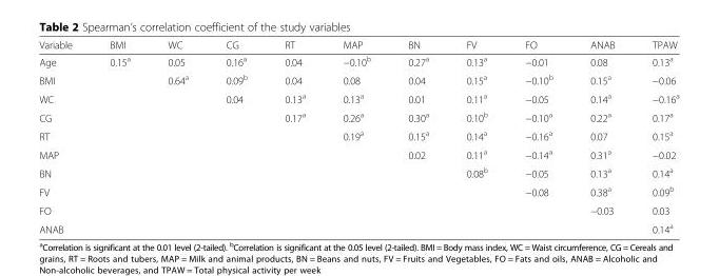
<table><thead><tr><td>Variable</td><td>BMI</td><td>WC</td><td>CG</td><td>RT</td><td>MAP</td><td>BN</td><td>FV</td><td>FO</td><td>ANAB</td><td>TPAW</td></tr></thead><tbody><tr><td>Age</td><td>0.15<sup>a</sup></td><td>0.05</td><td>0.16<sup>a</sup></td><td>0.04</td><td>−0.10<sup>b</sup></td><td>0.27<sup>a</sup></td><td>0.13<sup>a</sup></td><td>−0.01</td><td>0.08</td><td>0.13<sup>a</sup></td></tr><tr><td>BMI</td><td></td><td>0.64<sup>a</sup></td><td>0.09<sup>b</sup></td><td>0.04</td><td>0.08</td><td>0.04</td><td>0.15<sup>a</sup></td><td>−0.10<sup>b</sup></td><td>0.15<sup>a</sup></td><td>−0.06</td></tr><tr><td>WC</td><td></td><td></td><td>0.04</td><td>0.13<sup>a</sup></td><td>0.13<sup>a</sup></td><td>0.01</td><td>0.11<sup>a</sup></td><td>−0.05</td><td>0.14<sup>a</sup></td><td>−0.16<sup>a</sup></td></tr><tr><td>CG</td><td></td><td></td><td></td><td>0.17<sup>a</sup></td><td>0.26<sup>a</sup></td><td>0.30<sup>a</sup></td><td>0.10<sup>b</sup></td><td>−0.10<sup>a</sup></td><td>0.22<sup>a</sup></td><td>0.17<sup>a</sup></td></tr><tr><td>RT</td><td></td><td></td><td></td><td></td><td>0.19<sup>a</sup></td><td>0.15<sup>a</sup></td><td>0.14<sup>a</sup></td><td>−0.16<sup>a</sup></td><td>0.07</td><td>0.15<sup>a</sup></td></tr><tr><td>MAP</td><td></td><td></td><td></td><td></td><td></td><td>0.02</td><td>0.11<sup>a</sup></td><td>−0.14<sup>a</sup></td><td>0.31<sup>a</sup></td><td>−0.02</td></tr><tr><td>BN</td><td></td><td></td><td></td><td></td><td></td><td></td><td>0.08<sup>b</sup></td><td>−0.05</td><td>0.13<sup>a</sup></td><td>0.14<sup>a</sup></td></tr><tr><td>FV</td><td></td><td></td><td></td><td></td><td></td><td></td><td></td><td>−0.08</td><td>0.38<sup>a</sup></td><td>0.09<sup>b</sup></td></tr><tr><td>FO</td><td></td><td></td><td></td><td></td><td></td><td></td><td></td><td></td><td>−0.03</td><td>0.03</td></tr><tr><td>ANAB</td><td></td><td></td><td></td><td></td><td></td><td></td><td></td><td></td><td></td><td>0.14<sup>a</sup></td></tr></tbody></table>